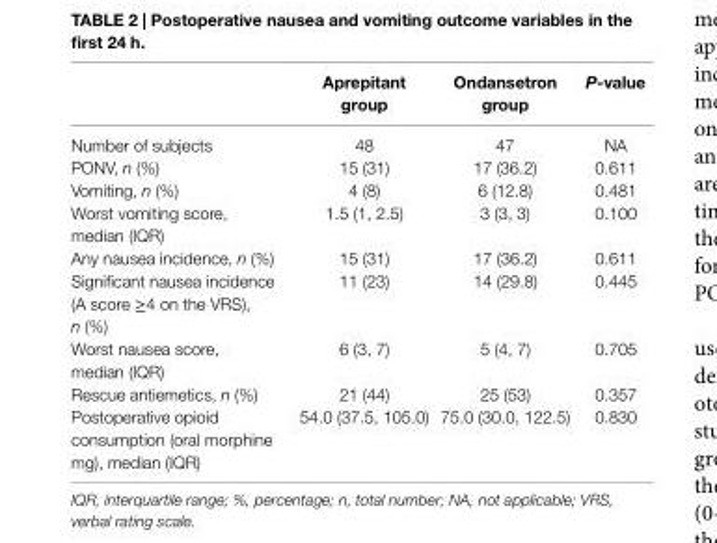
<table><thead><tr><td></td><td>aprepitant group</td><td>Ondansetron group</td><td>P-value</td></tr></thead><tbody><tr><td>Number of subjects</td><td>48</td><td>47</td><td>NA</td></tr><tr><td>PONV, n (%)</td><td>15 (31)</td><td>17 (36.2)</td><td>0.611</td></tr><tr><td>Vomiting, n (%)</td><td>4 (8)</td><td>6 (12.8)</td><td>0.481</td></tr><tr><td>Worst vomiting score, median (IQR)</td><td>1.5 (1, 2.5)</td><td>3 (3, 3)</td><td>0.100</td></tr><tr><td>Any nausea incidence, n (%)</td><td>15 (31)</td><td>17 (36.2)</td><td>0.611</td></tr><tr><td>Significant nausea incidence (A score ≥4 on the VRS), n (%)</td><td>11 (23)</td><td>14 (29.8)</td><td>0.445</td></tr><tr><td>Worst nausea score, median (IQR)</td><td>6 (3, 7)</td><td>5 (4, 7)</td><td>0.705</td></tr><tr><td>Rescue antiemetics, n (%)</td><td>21 (44)</td><td>25 (53)</td><td>0.357</td></tr><tr><td>Postoperative opioid consumption (oral morphine mg), median (IQR)</td><td>54.0 (37.5, 105.0)</td><td>75.0 (30.0, 122.5)</td><td>0.830</td></tr></tbody></table>